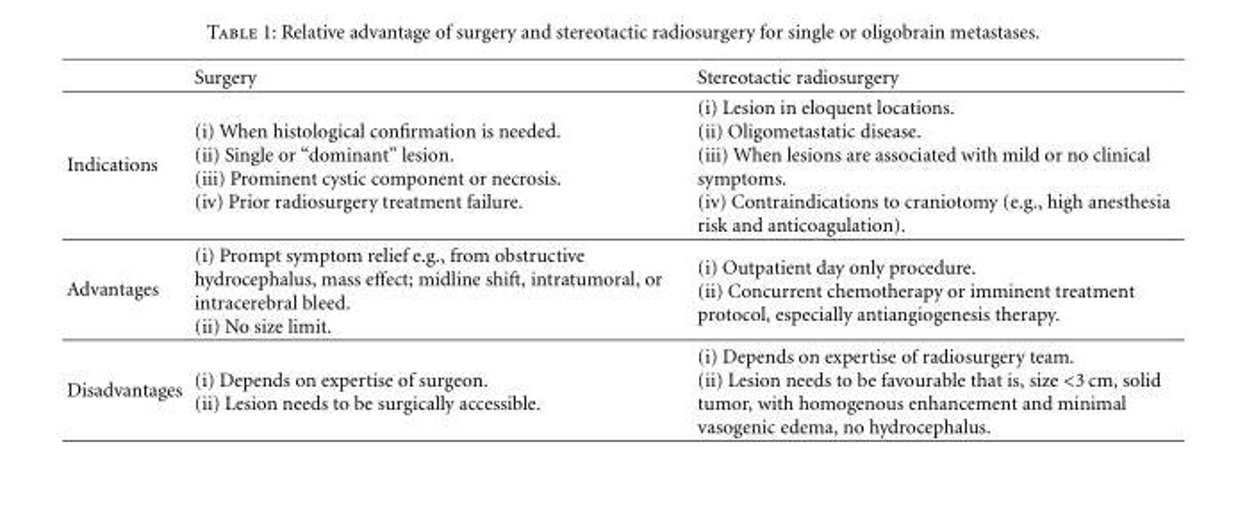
<table><thead><tr><td></td><td>Surgery</td><td>Stereotactic radiosurgery</td></tr></thead><tbody><tr><td>Indications</td><td>(i) When histological confirmation is needed. (ii) Single or “dominant” lesion. (iii) Prominent cystic component or necrosis. (iv) Prior radiosurgery treatment failure.</td><td>(i) Lesion in eloquent locations. (ii) Oligometastatic disease. (iii) When lesions are associated with mild or no clinical symptoms. (iv) Contraindications to craniotomy (e.g., high anesthesia risk and anticoagulation).</td></tr><tr><td>Advantages</td><td>(i) Prompt symptom relief e.g., from obstructive hydrocephalus, mass effect; midline shift, intratumoral, or intracerebral bleed. (ii) No size limit.</td><td>(i) Outpatient day only procedure. (ii) Concurrent chemotherapy or imminent treatment protocol, especially antiangiogenesis therapy.</td></tr><tr><td>Disadvantages</td><td>(i) Depends on expertise of surgeon. (ii) Lesion needs to be surgically accessible.</td><td>(i) Depends on expertise of radiosurgery team. (ii) Lesion needs to be favourable that is, size &lt;3 cm, solid tumor, with homogenous enhancement and minimal vasogenic edema, no hydrocephalus.</td></tr></tbody></table>